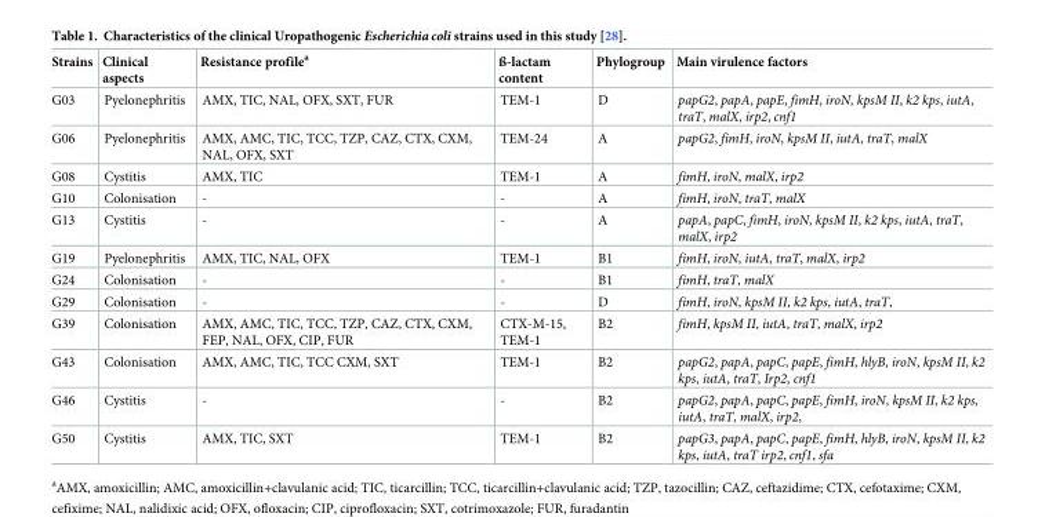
<table><thead><tr><td>Strains</td><td>Clinical aspects</td><td>Resistance profile<sup>a</sup></td><td>ß-lactam content</td><td>Phylogroup</td><td>Main virulence factors</td></tr></thead><tbody><tr><td>G03</td><td>Pyelonephritis</td><td>AMX, TIC, NAL, OFX, SXT, FUR</td><td>TEM-1</td><td>D</td><td>papG2, papA, papE, fimH, iroN, kpsM II, k2 kps, iutA, traT, malX, irp2, cnf1</td></tr><tr><td>G06</td><td>Pyelonephritis</td><td>AMX, AMC, TIC, TCC, TZP, CAZ, CTX, CXM, NAL, OFX, SXT</td><td>TEM-24</td><td>A</td><td>papG2, fimH, iroN, kpsM II, iutA, traT, malX</td></tr><tr><td>G08</td><td>Cystitis</td><td>AMX, TIC</td><td>TEM-1</td><td>A</td><td>fimH, iroN, malX, irp2</td></tr><tr><td>G10</td><td>Colonisation</td><td>-</td><td>-</td><td>A</td><td>fimH, iroN, traT, malX</td></tr><tr><td>G13</td><td>Cystitis</td><td>-</td><td>-</td><td>A</td><td>papA, papC, fimH, iroN, kpsM II, k2 kps, iutA, traT, malX, irp2</td></tr><tr><td>G19</td><td>Pyelonephritis</td><td>AMX, TIC, NAL, OFX</td><td>TEM-1</td><td>B1</td><td>fimH, iroN, iutA, traT, malX, irp2</td></tr><tr><td>G24</td><td>Colonisation</td><td>-</td><td>-</td><td>B1</td><td>fimH, traT, malX</td></tr><tr><td>G29</td><td>Colonisation</td><td>-</td><td>-</td><td>D</td><td>fimH, iroN, kpsM II, k2 kps, iutA, traT,</td></tr><tr><td>G39</td><td>Colonisation</td><td>AMX, AMC, TIC, TCC, TZP, CAZ, CTX, CXM, FEP, NAL, OFX, CIP, FUR</td><td>CTX-M-15, TEM-1</td><td>B2</td><td>fimH, kpsM II, iutA, traT, malX, irp2</td></tr><tr><td>G43</td><td>Colonisation</td><td>AMX, AMC, TIC, TCC CXM, SXT</td><td>TEM-1</td><td>B2</td><td>papG2, papA, papC, papE, fimH, hlyB, iroN, kpsM II, k2 kps, iutA, traT, Irp2, cnf1</td></tr><tr><td>G46</td><td>Cystitis</td><td>-</td><td>-</td><td>B2</td><td>papG2, papA, papC, papE, fimH, iroN, kpsM II, k2 kps, iutA, traT, malX, irp2,</td></tr><tr><td>G50</td><td>Cystitis</td><td>AMX, TIC, SXT</td><td>TEM-1</td><td>B2</td><td>papG3, papA, papC, papE, fimH, hlyB, iroN, kpsM II, k2 kps, iutA, traT irp2, cnf1, sfa</td></tr></tbody></table>